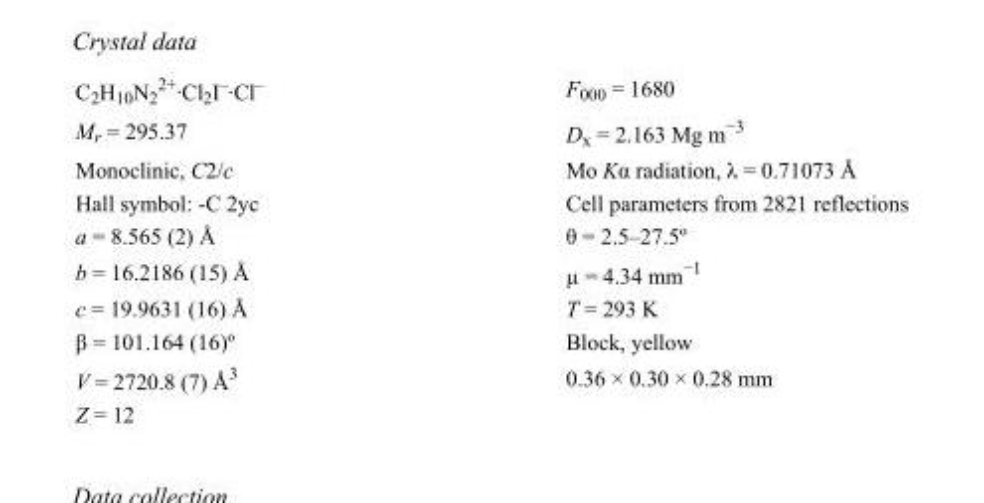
<table><tbody><tr><td>C<sub>2</sub>H<sub>10</sub>N<sub>2</sub> <sup>2+</sup>·Cl<sub>2</sub>I<sup>–</sup>·Cl<sup>–</sup></td><td>F000 = 1680</td></tr><tr><td>M<sub>r</sub> = 295.37</td><td>D<sub>x</sub> = 2.163 Mg m<sup>−3</sup></td></tr><tr><td>Monoclinic, C2/c</td><td>Mo Kα radiation, λ = 0.71073 Å</td></tr><tr><td>Hall symbol: -C 2yc</td><td>Cell parameters from 2821 reflections</td></tr><tr><td>a = 8.565 (2) Å</td><td>θ = 2.5–27.5º</td></tr><tr><td>b = 16.2186 (15) Å</td><td>µ = 4.34 mm<sup>−1</sup></td></tr><tr><td>c = 19.9631 (16) Å</td><td>T = 293 K</td></tr><tr><td>β = 101.164 (16)º</td><td>Block, yellow</td></tr><tr><td>V = 2720.8 (7) Å<sup>3</sup></td><td>0.36 × 0.30 × 0.28 mm</td></tr><tr><td>Z = 12</td><td></td></tr></tbody></table>